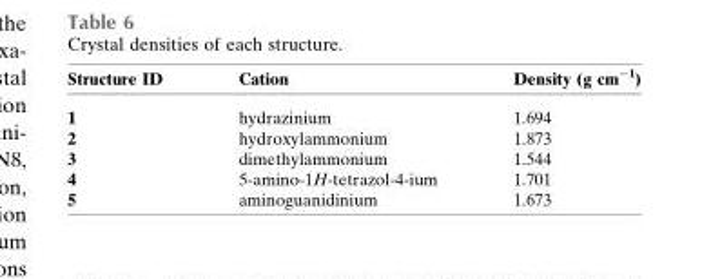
<table><thead><tr><td>Structure ID</td><td>Cation</td><td>Density (g cm<sup>−1</sup>)</td></tr></thead><tbody><tr><td>1</td><td>hydrazinium</td><td>1.694</td></tr><tr><td>2</td><td>hydroxylammonium</td><td>1.873</td></tr><tr><td>3</td><td>dimethylammonium</td><td>1.544</td></tr><tr><td>4</td><td>5-amino-1H-tetrazol-4-ium</td><td>1.701</td></tr><tr><td>5</td><td>aminoguanidinium</td><td>1.673</td></tr></tbody></table>